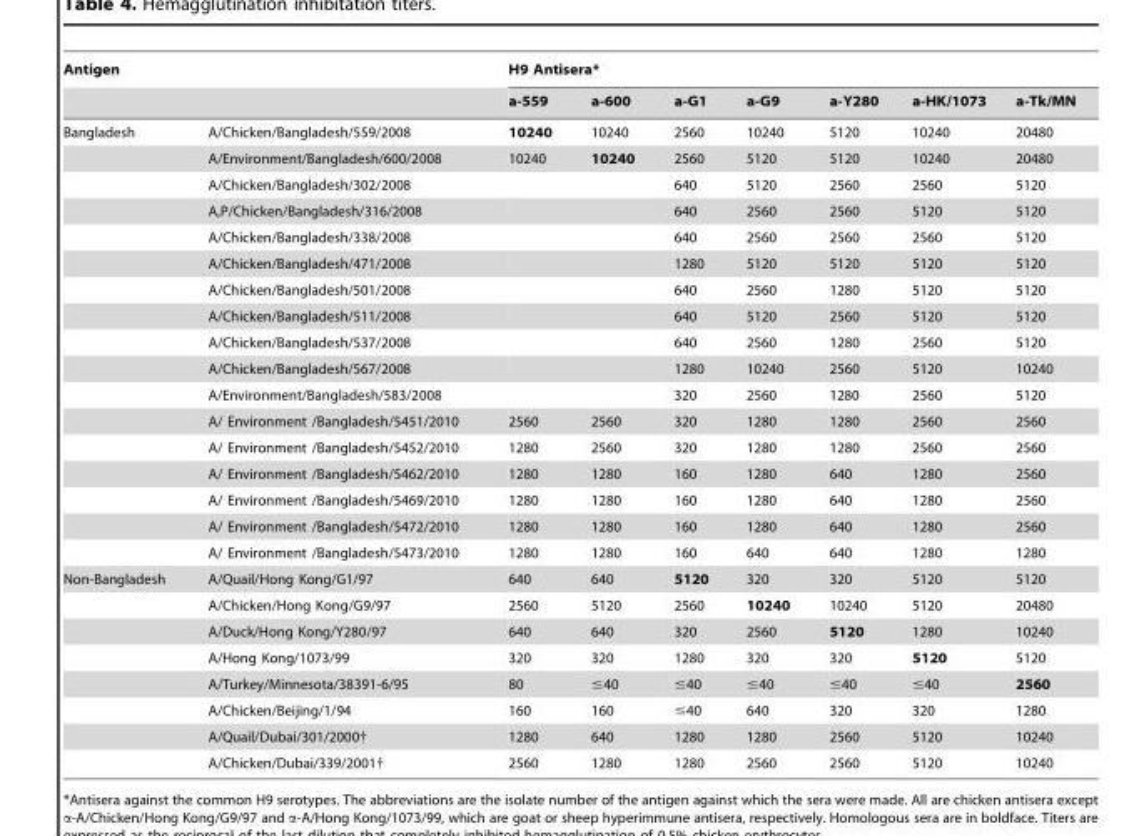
<table><thead><tr><td colspan="2">Antigen</td><td colspan="7">H9 Antisera*</td></tr><tr><td></td><td></td><td>a-559</td><td>a-600</td><td>a-G1</td><td>a-G9</td><td>a-Y280</td><td>a-HK/1073</td><td>a-Tk/MN</td></tr></thead><tbody><tr><td rowspan="17">Bangladesh</td><td>A/Chicken/Bangladesh/559/2008</td><td>10240</td><td>10240</td><td>2560</td><td>10240</td><td>5120</td><td>10240</td><td>20480</td></tr><tr><td>A/Environment/Bangladesh/600/2008</td><td>10240</td><td>10240</td><td>2560</td><td>5120</td><td>5120</td><td>10240</td><td>20480</td></tr><tr><td>A/Chicken/Bangladesh/302/2008</td><td></td><td></td><td>640</td><td>5120</td><td>2560</td><td>2560</td><td>5120</td></tr><tr><td>A,P/Chicken/Bangladesh/316/2008</td><td></td><td></td><td>640</td><td>2560</td><td>2560</td><td>5120</td><td>5120</td></tr><tr><td>A/Chicken/Bangladesh/338/2008</td><td></td><td></td><td>640</td><td>2560</td><td>2560</td><td>2560</td><td>5120</td></tr><tr><td>A/Chicken/Bangladesh/471/2008</td><td></td><td></td><td>1280</td><td>5120</td><td>5120</td><td>5120</td><td>5120</td></tr><tr><td>A/Chicken/Bangladesh/501/2008</td><td></td><td></td><td>640</td><td>2560</td><td>1280</td><td>5120</td><td>5120</td></tr><tr><td>A/Chicken/Bangladesh/511/2008</td><td></td><td></td><td>640</td><td>5120</td><td>2560</td><td>5120</td><td>5120</td></tr><tr><td>A/Chicken/Bangladesh/537/2008</td><td></td><td></td><td>640</td><td>2560</td><td>1280</td><td>2560</td><td>5120</td></tr><tr><td>A/Chicken/Bangladesh/567/2008</td><td></td><td></td><td>1280</td><td>10240</td><td>2560</td><td>5120</td><td>10240</td></tr><tr><td>A/Environment/Bangladesh/583/2008</td><td></td><td></td><td>320</td><td>2560</td><td>1280</td><td>2560</td><td>5120</td></tr><tr><td>A/ Environment /Bangladesh/5451/2010</td><td>2560</td><td>2560</td><td>320</td><td>1280</td><td>1280</td><td>2560</td><td>2560</td></tr><tr><td>A/ Environment /Bangladesh/5452/2010</td><td>1280</td><td>2560</td><td>320</td><td>1280</td><td>1280</td><td>2560</td><td>2560</td></tr><tr><td>A/ Environment /Bangladesh/5462/2010</td><td>1280</td><td>1280</td><td>160</td><td>1280</td><td>640</td><td>1280</td><td>2560</td></tr><tr><td>A/ Environment /Bangladesh/5469/2010</td><td>1280</td><td>1280</td><td>160</td><td>1280</td><td>640</td><td>1280</td><td>2560</td></tr><tr><td>A/ Environment /Bangladesh/5472/2010</td><td>1280</td><td>1280</td><td>160</td><td>1280</td><td>640</td><td>1280</td><td>2560</td></tr><tr><td>A/ Environment /Bangladesh/5473/2010</td><td>1280</td><td>1280</td><td>160</td><td>640</td><td>640</td><td>1280</td><td>1280</td></tr><tr><td rowspan="8">Non-Bangladesh</td><td>A/Quail/Hong Kong/G1/97</td><td>640</td><td>640</td><td>5120</td><td>320</td><td>320</td><td>5120</td><td>5120</td></tr><tr><td>A/Chicken/Hong Kong/G9/97</td><td>2560</td><td>5120</td><td>2560</td><td>10240</td><td>10240</td><td>5120</td><td>20480</td></tr><tr><td>A/Duck/Hong Kong/Y280/97</td><td>640</td><td>640</td><td>320</td><td>2560</td><td>5120</td><td>1280</td><td>10240</td></tr><tr><td>A/Hong Kong/1073/99</td><td>320</td><td>320</td><td>1280</td><td>320</td><td>320</td><td>5120</td><td>5120</td></tr><tr><td>A/Turkey/Minnesota/38391-6/95</td><td>80</td><td>≤40</td><td>≤40</td><td>≤40</td><td>≤40</td><td>≤40</td><td>2560</td></tr><tr><td>A/Chicken/Beijing/1/94</td><td>160</td><td>160</td><td>≤40</td><td>640</td><td>320</td><td>320</td><td>1280</td></tr><tr><td>A/Quail/Dubai/301/2000†</td><td>1280</td><td>640</td><td>1280</td><td>1280</td><td>2560</td><td>5120</td><td>10240</td></tr><tr><td>A/Chicken/Dubai/339/2001†</td><td>2560</td><td>1280</td><td>1280</td><td>2560</td><td>2560</td><td>5120</td><td>10240</td></tr></tbody></table>